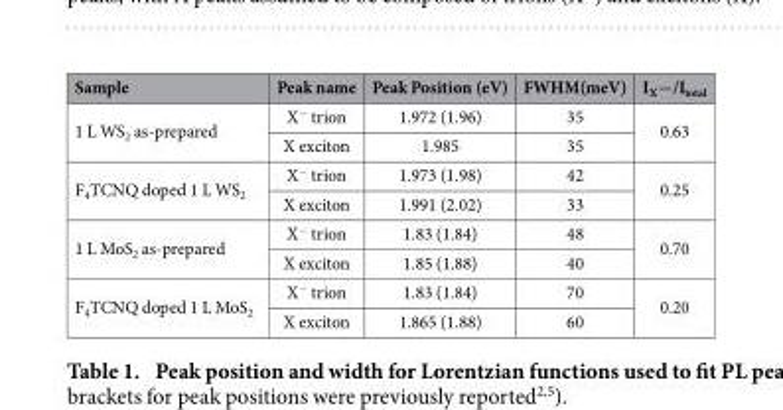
<table><thead><tr><td>Sample</td><td>Peak name</td><td>Peak Position (eV)</td><td>FWHM(meV)</td><td>I<sub>X−</sub>/I<sub>total</sub></td></tr></thead><tbody><tr><td rowspan="2">1 L WS<sub>2</sub> as-prepared</td><td>X<sup>−</sup> trion</td><td>1.972 (1.96)</td><td>35</td><td rowspan="2">0.63</td></tr><tr><td>X exciton</td><td>1.985</td><td>35</td></tr><tr><td rowspan="2">F<sub>4</sub>TCNQ doped 1 L WS<sub>2</sub></td><td>X<sup>−</sup> trion</td><td>1.973 (1.98)</td><td>42</td><td rowspan="2">0.25</td></tr><tr><td>X exciton</td><td>1.991 (2.02)</td><td>33</td></tr><tr><td rowspan="2">1 L MoS<sub>2</sub> as-prepared</td><td>X<sup>−</sup> trion</td><td>1.83 (1.84)</td><td>48</td><td rowspan="2">0.70</td></tr><tr><td>X exciton</td><td>1.85 (1.88)</td><td>40</td></tr><tr><td rowspan="2">F<sub>4</sub>TCNQ doped 1 L MoS<sub>2</sub></td><td>X<sup>−</sup> trion</td><td>1.83 (1.84)</td><td>70</td><td rowspan="2">0.20</td></tr><tr><td>X exciton</td><td>1.865 (1.88)</td><td>60</td></tr></tbody></table>